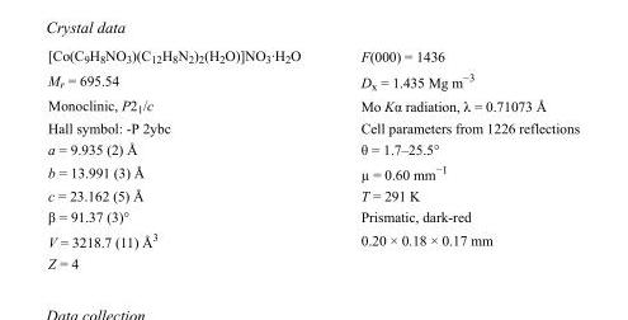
<table><tbody><tr><td>[Co(C<sub>9</sub>H<sub>8</sub>NO<sub>3</sub>)(C<sub>12</sub>H<sub>8</sub>N<sub>2</sub>)<sub>2</sub>(H<sub>2</sub>O)]NO<sub>3</sub>·H<sub>2</sub>O</td><td>F(000) = 1436</td></tr><tr><td>M<sub>r</sub> = 695.54</td><td>D<sub>x</sub> = 1.435 Mg m<sup>−3</sup></td></tr><tr><td>Monoclinic, P2<sub>1</sub>/c</td><td>Mo Kα radiation, λ = 0.71073 Å</td></tr><tr><td>Hall symbol: -P 2ybc</td><td>Cell parameters from 1226 reflections</td></tr><tr><td>a = 9.935 (2) Å</td><td>θ = 1.7–25.5°</td></tr><tr><td>b = 13.991 (3) Å</td><td>µ = 0.60 mm<sup>−1</sup></td></tr><tr><td>c = 23.162 (5) Å</td><td>T = 291 K</td></tr><tr><td>β = 91.37 (3)°</td><td>Prismatic, dark-red</td></tr><tr><td>V = 3218.7 (11) Å<sup>3</sup></td><td>0.20 × 0.18 × 0.17 mm</td></tr><tr><td>Z = 4</td><td></td></tr></tbody></table>